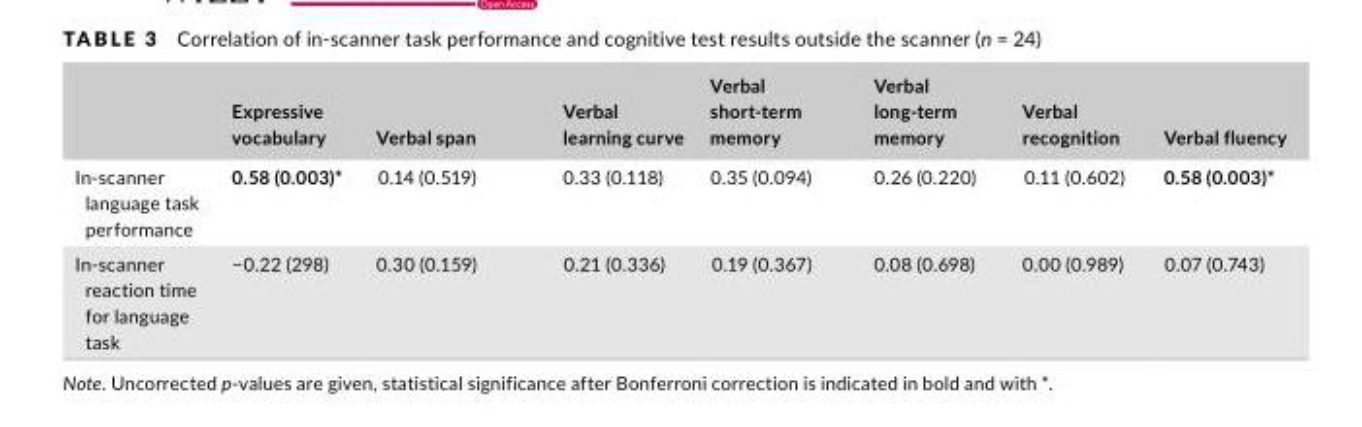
<table><thead><tr><td></td><td>Expressive vocabulary</td><td>Verbal span</td><td>Verbal learning curve</td><td>Verbal short- term memory</td><td>Verbal long- term memory</td><td>Verbal recognition</td><td>Verbal fluency</td></tr></thead><tbody><tr><td>In- scanner language task performance</td><td>0.58 (0.003)*</td><td>0.14 (0.519)</td><td>0.33 (0.118)</td><td>0.35 (0.094)</td><td>0.26 (0.220)</td><td>0.11 (0.602)</td><td>0.58 (0.003)*</td></tr><tr><td>In- scanner reaction time for language task</td><td>−0.22 (298)</td><td>0.30 (0.159)</td><td>0.21 (0.336)</td><td>0.19 (0.367)</td><td>0.08 (0.698)</td><td>0.00 (0.989)</td><td>0.07 (0.743)</td></tr></tbody></table>